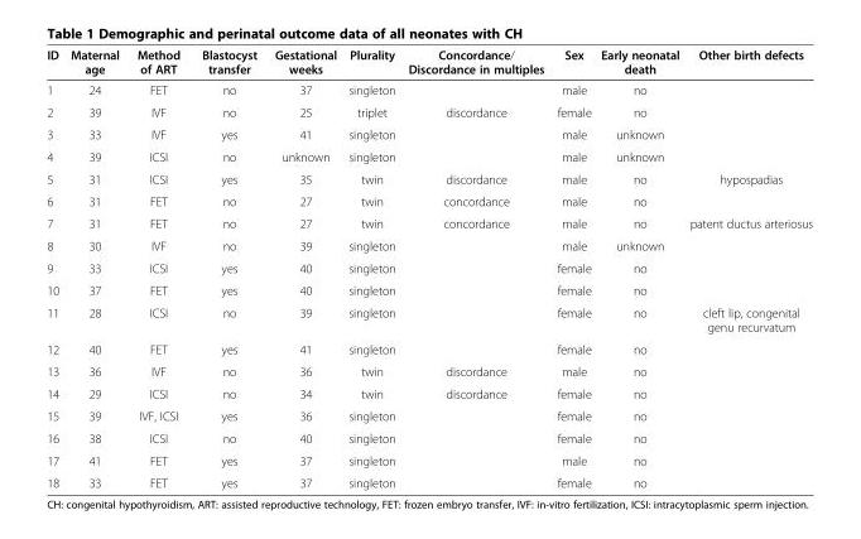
<table><thead><tr><td>ID</td><td>Maternal age</td><td>Method of ART</td><td>Blastocyst transfer</td><td>Gestational weeks</td><td>Plurality</td><td>Concordance/ Discordance in multiples</td><td>Sex</td><td>Early neonatal death</td><td>Other birth defects</td></tr></thead><tbody><tr><td>1</td><td>24</td><td>FET</td><td>no</td><td>37</td><td>singleton</td><td></td><td>male</td><td>no</td><td></td></tr><tr><td>2</td><td>39</td><td>IVF</td><td>no</td><td>25</td><td>triplet</td><td>discordance</td><td>female</td><td>no</td><td></td></tr><tr><td>3</td><td>33</td><td>IVF</td><td>yes</td><td>41</td><td>singleton</td><td></td><td>male</td><td>unknown</td><td></td></tr><tr><td>4</td><td>39</td><td>ICSI</td><td>no</td><td>unknown</td><td>singleton</td><td></td><td>male</td><td>unknown</td><td></td></tr><tr><td>5</td><td>31</td><td>ICSI</td><td>yes</td><td>35</td><td>twin</td><td>discordance</td><td>male</td><td>no</td><td>hypospadias</td></tr><tr><td>6</td><td>31</td><td>FET</td><td>no</td><td>27</td><td>twin</td><td>concordance</td><td>male</td><td>no</td><td></td></tr><tr><td>7</td><td>31</td><td>FET</td><td>no</td><td>27</td><td>twin</td><td>concordance</td><td>male</td><td>no</td><td>patent ductus arteriosus</td></tr><tr><td>8</td><td>30</td><td>IVF</td><td>no</td><td>39</td><td>singleton</td><td></td><td>male</td><td>unknown</td><td></td></tr><tr><td>9</td><td>33</td><td>ICSI</td><td>yes</td><td>40</td><td>singleton</td><td></td><td>female</td><td>no</td><td></td></tr><tr><td>10</td><td>37</td><td>FET</td><td>yes</td><td>40</td><td>singleton</td><td></td><td>female</td><td>no</td><td></td></tr><tr><td>11</td><td>28</td><td>ICSI</td><td>no</td><td>39</td><td>singleton</td><td></td><td>female</td><td>no</td><td>cleft lip, congenital genu recurvatum</td></tr><tr><td>12</td><td>40</td><td>FET</td><td>yes</td><td>41</td><td>singleton</td><td></td><td>female</td><td>no</td><td></td></tr><tr><td>13</td><td>36</td><td>IVF</td><td>no</td><td>36</td><td>twin</td><td>discordance</td><td>male</td><td>no</td><td></td></tr><tr><td>14</td><td>29</td><td>ICSI</td><td>no</td><td>34</td><td>twin</td><td>discordance</td><td>female</td><td>no</td><td></td></tr><tr><td>15</td><td>39</td><td>IVF, ICSI</td><td>yes</td><td>36</td><td>singleton</td><td></td><td>female</td><td>no</td><td></td></tr><tr><td>16</td><td>38</td><td>ICSI</td><td>no</td><td>40</td><td>singleton</td><td></td><td>female</td><td>no</td><td></td></tr><tr><td>17</td><td>41</td><td>FET</td><td>yes</td><td>37</td><td>singleton</td><td></td><td>male</td><td>no</td><td></td></tr><tr><td>18</td><td>33</td><td>FET</td><td>yes</td><td>37</td><td>singleton</td><td></td><td>female</td><td>no</td><td></td></tr></tbody></table>